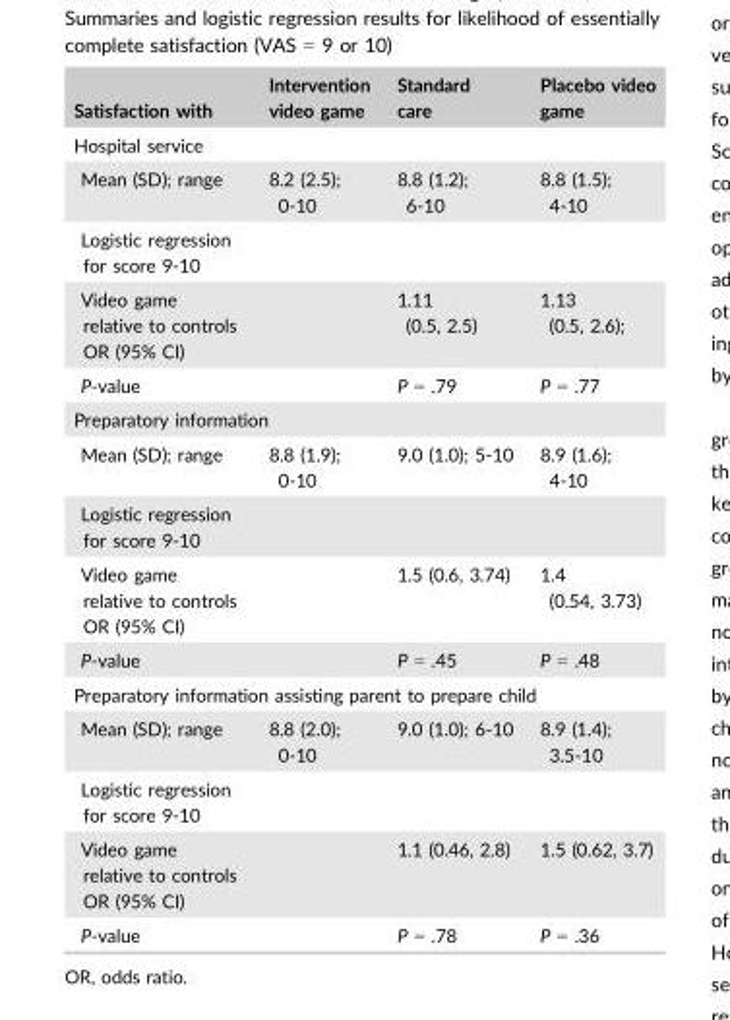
<table><thead><tr><td>Satisfaction with</td><td>Intervention video game</td><td>Standard care</td><td>Placebo video game</td></tr></thead><tbody><tr><td colspan="4">Hospital service</td></tr><tr><td>Mean (SD); range</td><td>8.2 (2.5); 0-10</td><td>8.8 (1.2); 6-10</td><td>8.8 (1.5); 4-10</td></tr><tr><td colspan="4">Logistic regression for score 9-10</td></tr><tr><td>Video game relative to controls OR (95% CI)</td><td></td><td>1.11 (0.5, 2.5)</td><td>1.13 (0.5, 2.6);</td></tr><tr><td>P-value</td><td></td><td>P = .79</td><td>P = .77</td></tr><tr><td colspan="4">Preparatory information</td></tr><tr><td>Mean (SD); range</td><td>8.8 (1.9); 0-10</td><td>9.0 (1.0); 5-10</td><td>8.9 (1.6); 4-10</td></tr><tr><td colspan="4">Logistic regression for score 9-10</td></tr><tr><td>Video game relative to controls OR (95% CI)</td><td></td><td>1.5 (0.6, 3.74)</td><td>1.4 (0.54, 3.73)</td></tr><tr><td>P-value</td><td></td><td>P = .45</td><td>P = .48</td></tr><tr><td colspan="4">Preparatory information assisting parent to prepare child</td></tr><tr><td>Mean (SD); range</td><td>8.8 (2.0); 0-10</td><td>9.0 (1.0); 6-10</td><td>8.9 (1.4); 3.5-10</td></tr><tr><td colspan="4">Logistic regression for score 9-10</td></tr><tr><td>Video game relative to controls OR (95% CI)</td><td></td><td>1.1 (0.46, 2.8)</td><td>1.5 (0.62, 3.7)</td></tr><tr><td>P-value</td><td></td><td>P = .78</td><td>P = .36</td></tr></tbody></table>